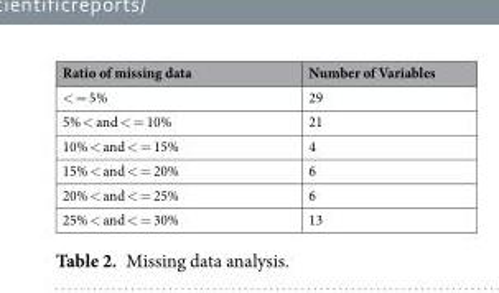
<table><thead><tr><td>Ratio of missing data</td><td>Number of Variables</td></tr></thead><tbody><tr><td>&lt; = 5%</td><td>29</td></tr><tr><td>5% &lt; and &lt; = 10%</td><td>21</td></tr><tr><td>10% &lt; and &lt; = 15%</td><td>4</td></tr><tr><td>15% &lt; and &lt; = 20%</td><td>6</td></tr><tr><td>20% &lt; and &lt; = 25%</td><td>6</td></tr><tr><td>25% &lt; and &lt; = 30%</td><td>13</td></tr></tbody></table>